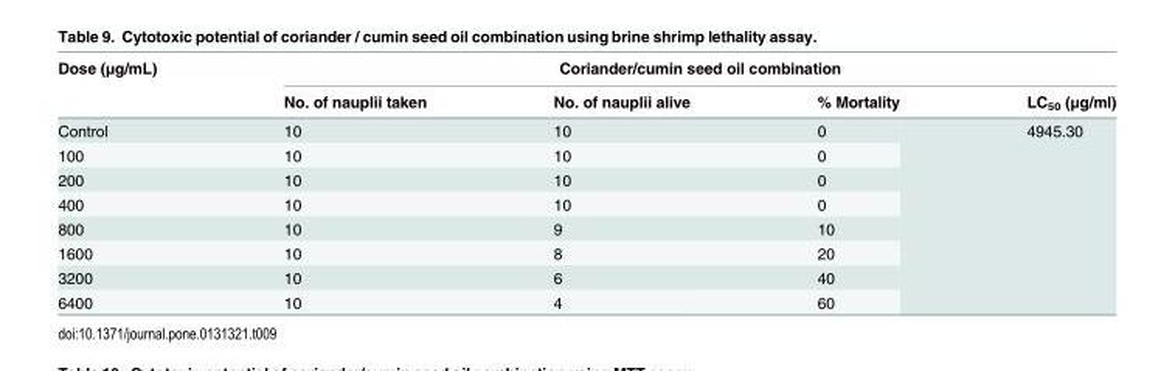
<table><thead><tr><td rowspan="2">Dose (μg/mL)</td><td colspan="4">Coriander/cumin seed oil combination</td></tr><tr><td>No. of nauplii taken</td><td>No. of nauplii alive</td><td>% Mortality</td><td>LC<sub>50</sub> (μg/ml)</td></tr></thead><tbody><tr><td>Control</td><td>10</td><td>10</td><td>0</td><td rowspan="8">4945.30</td></tr><tr><td>100</td><td>10</td><td>10</td><td>0</td></tr><tr><td>200</td><td>10</td><td>10</td><td>0</td></tr><tr><td>400</td><td>10</td><td>10</td><td>0</td></tr><tr><td>800</td><td>10</td><td>9</td><td>10</td></tr><tr><td>1600</td><td>10</td><td>8</td><td>20</td></tr><tr><td>3200</td><td>10</td><td>6</td><td>40</td></tr><tr><td>6400</td><td>10</td><td>4</td><td>60</td></tr></tbody></table>